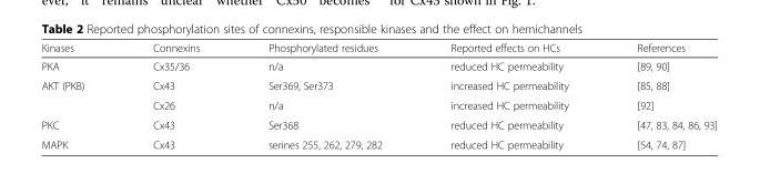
<table><thead><tr><td>Kinases</td><td>Connexins</td><td>Phosphorylated residues</td><td>Reported effects on HCs</td><td>References</td></tr></thead><tbody><tr><td>PKA</td><td>Cx35/36</td><td>n/a</td><td>reduced HC permeability</td><td>[89, 90]</td></tr><tr><td rowspan="2">AKT (PKB)</td><td>Cx43</td><td>Ser369, Ser373</td><td>increased HC permeability</td><td>[85, 88]</td></tr><tr><td>Cx26</td><td>n/a</td><td>increased HC permeability</td><td>[92]</td></tr><tr><td>PKC</td><td>Cx43</td><td>Ser368</td><td>reduced HC permeability</td><td>[47, 83, 84, 86, 93]</td></tr><tr><td>MAPK</td><td>Cx43</td><td>serines 255, 262, 279, 282</td><td>reduced HC permeability</td><td>[54, 74, 87]</td></tr></tbody></table>